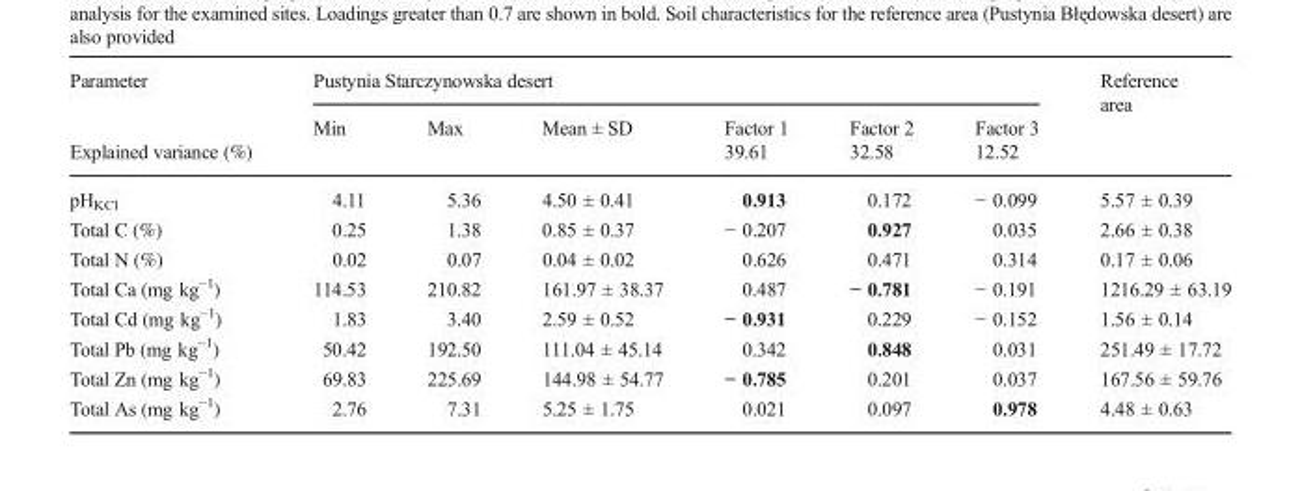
<table><thead><tr><td rowspan="3">Parameter Explained variance (%)</td><td colspan="6">Pustynia Starczynowska desert</td><td rowspan="3">Reference area</td></tr><tr><td rowspan="2">Min</td><td rowspan="2">Max</td><td rowspan="2">Mean ± SD</td><td rowspan="2">Factor 1 39.61</td><td rowspan="2">Factor 2 32.58</td><td rowspan="2">Factor 3 12.52</td></tr><tr></tr></thead><tbody><tr><td>pH<sub>KCl</sub></td><td>4.11</td><td>5.36</td><td>4.50 ± 0.41</td><td>0.913</td><td>0.172</td><td>− 0.099</td><td>5.57 ± 0.39</td></tr><tr><td>Total C (%)</td><td>0.25</td><td>1.38</td><td>0.85 ± 0.37</td><td>− 0.207</td><td>0.927</td><td>0.035</td><td>2.66 ± 0.38</td></tr><tr><td>Total N (%)</td><td>0.02</td><td>0.07</td><td>0.04 ± 0.02</td><td>0.626</td><td>0.471</td><td>0.314</td><td>0.17 ± 0.06</td></tr><tr><td>Total Ca (mg kg<sup>−1</sup>)</td><td>114.53</td><td>210.82</td><td>161.97 ± 38.37</td><td>0.487</td><td>− 0.781</td><td>− 0.191</td><td>1216.29 ± 63.19</td></tr><tr><td>Total Cd (mg kg<sup>−1</sup>)</td><td>1.83</td><td>3.40</td><td>2.59 ± 0.52</td><td>− 0.931</td><td>0.229</td><td>− 0.152</td><td>1.56 ± 0.14</td></tr><tr><td>Total Pb (mg kg<sup>−1</sup>)</td><td>50.42</td><td>192.50</td><td>111.04 ± 45.14</td><td>0.342</td><td>0.848</td><td>0.031</td><td>251.49 ± 17.72</td></tr><tr><td>Total Zn (mg kg<sup>−1</sup>)</td><td>69.83</td><td>225.69</td><td>144.98 ± 54.77</td><td>− 0.785</td><td>0.201</td><td>0.037</td><td>167.56 ± 59.76</td></tr><tr><td>Total As (mg kg<sup>−1</sup>)</td><td>2.76</td><td>7.31</td><td>5.25 ± 1.75</td><td>0.021</td><td>0.097</td><td>0.978</td><td>4.48 ± 0.63</td></tr></tbody></table>